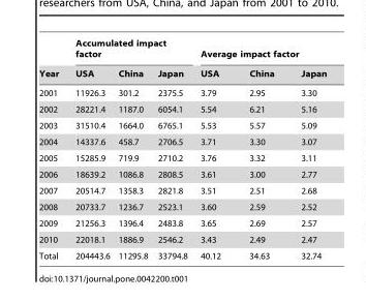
<table><thead><tr><td rowspan="2">Year</td><td colspan="3">Accumulated impact factor</td><td colspan="3">Average impact factor</td></tr><tr><td>USA</td><td>China</td><td>Japan</td><td>USA</td><td>China</td><td>Japan</td></tr></thead><tbody><tr><td>2001</td><td>11926.3</td><td>301.2</td><td>2375.5</td><td>3.79</td><td>2.95</td><td>3.30</td></tr><tr><td>2002</td><td>28221.4</td><td>1187.0</td><td>6054.1</td><td>5.54</td><td>6.21</td><td>5.16</td></tr><tr><td>2003</td><td>31510.4</td><td>1664.0</td><td>6765.1</td><td>5.53</td><td>5.57</td><td>5.09</td></tr><tr><td>2004</td><td>14337.6</td><td>458.7</td><td>2706.5</td><td>3.71</td><td>3.30</td><td>3.07</td></tr><tr><td>2005</td><td>15285.9</td><td>719.9</td><td>2710.2</td><td>3.76</td><td>3.32</td><td>3.11</td></tr><tr><td>2006</td><td>18639.2</td><td>1086.8</td><td>2808.5</td><td>3.61</td><td>3.00</td><td>2.77</td></tr><tr><td>2007</td><td>20514.7</td><td>1358.3</td><td>2821.8</td><td>3.51</td><td>2.51</td><td>2.68</td></tr><tr><td>2008</td><td>20733.7</td><td>1236.7</td><td>2523.1</td><td>3.60</td><td>2.59</td><td>2.52</td></tr><tr><td>2009</td><td>21256.3</td><td>1396.4</td><td>2483.8</td><td>3.65</td><td>2.69</td><td>2.57</td></tr><tr><td>2010</td><td>22018.1</td><td>1886.9</td><td>2546.2</td><td>3.43</td><td>2.49</td><td>2.47</td></tr><tr><td>Total</td><td>204443.6</td><td>11295.8</td><td>33794.8</td><td>40.12</td><td>34.63</td><td>32.74</td></tr></tbody></table>